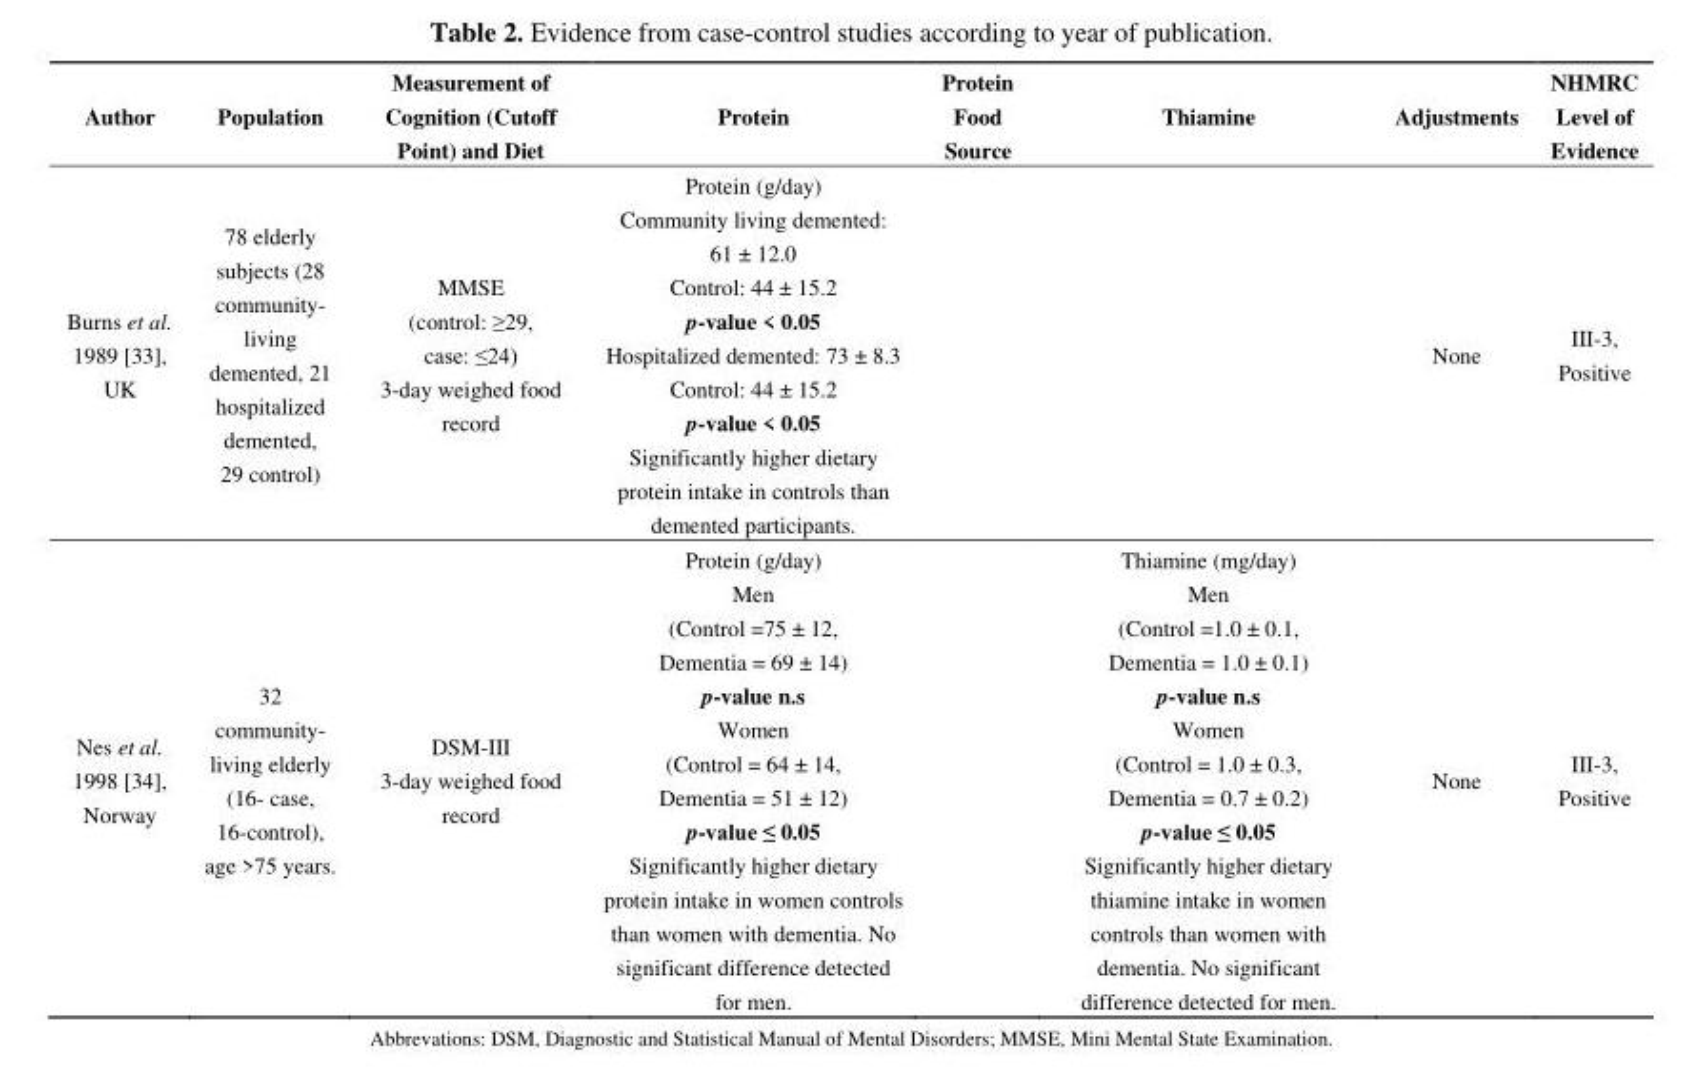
<table><thead><tr><td>Author</td><td>Population</td><td>Measurement of Cognition (Cutoff Point) and Diet</td><td>Protein</td><td>Protein Food Source</td><td>Thiamine</td><td>Adjustments</td><td>NHMRC Level of Evidence</td></tr></thead><tbody><tr><td>Burns et al. 1989 [33], UK</td><td>78 elderly subjects (28 community- living demented, 21 hospitalized demented, 29 control)</td><td>MMSE (control: ≥29, case: ≤24) 3-day weighed food record</td><td>Protein (g/day) Community living demented: 61 ± 12.0 Control: 44 ± 15.2 p-value &lt; 0.05 Hospitalized demented: 73 ± 8.3 Control: 44 ± 15.2 p-value &lt; 0.05 Significantly higher dietary protein intake in controls than demented participants.</td><td></td><td></td><td>None</td><td>III-3, Positive</td></tr><tr><td>Nes et al. 1998 [34], Norway</td><td>32 community- living elderly (16- case, 16-control), age &gt;75 years.</td><td>DSM-III 3-day weighed food record</td><td>Protein (g/day) Men (Control =75 ± 12, Dementia = 69 ± 14) p-value n.s Women (Control = 64 ± 14, Dementia = 51 ± 12) p-value ≤ 0.05 Significantly higher dietary protein intake in women controls than women with dementia. No significant difference detected for men.</td><td></td><td>Thiamine (mg/day) Men (Control =1.0 ± 0.1, Dementia = 1.0 ± 0.1) p-value n.s Women (Control = 1.0 ± 0.3, Dementia = 0.7 ± 0.2) p-value ≤ 0.05 Significantly higher dietary thiamine intake in women controls than women with dementia. No significant difference detected for men.</td><td>None</td><td>III-3, Positive</td></tr></tbody></table>